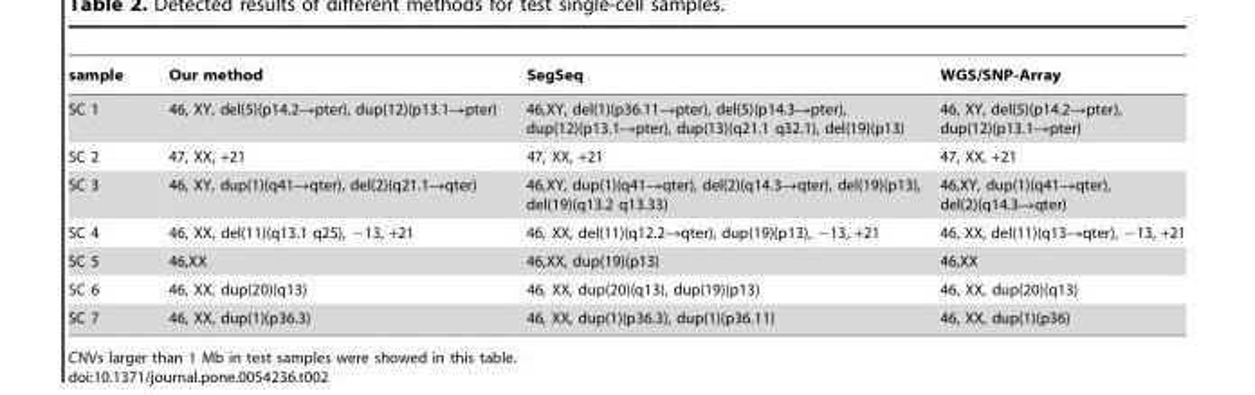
<table><thead><tr><td>sample</td><td>Our method</td><td>SegSeq</td><td>WGS/SNP-Array</td></tr></thead><tbody><tr><td>SC 1</td><td>46, XY, del(5)(p14.2→pter), dup(12)(p13.1→pter)</td><td>46,XY, del(1)(p36.11→pter), del(5)(p14.3→pter), dup(12)(p13.1→pter), dup(13)(q21.1 q32.1), del(19)(p13)</td><td>46, XY, del(5)(p14.2→pter), dup(12)(p13.1→pter)</td></tr><tr><td>SC 2</td><td>47, XX, +21</td><td>47, XX, +21</td><td>47, XX, +21</td></tr><tr><td>SC 3</td><td>46, XY, dup(1)(q41→qter), del(2)(q21.1→qter)</td><td>46,XY, dup(1)(q41→qter), del(2)(q14.3→qter), del(19)(p13), del(19)(q13.2 q13.33)</td><td>46,XY, dup(1)(q41→qter), del(2)(q14.3→qter)</td></tr><tr><td>SC 4</td><td>46, XX, del(11)(q13.1 q25), −13, +21</td><td>46, XX, del(11)(q12.2→qter), dup(19)(p13), −13, +21</td><td>46, XX, del(11)(q13→qter), −13, +21</td></tr><tr><td>SC 5</td><td>46,XX</td><td>46,XX, dup(19)(p13)</td><td>46,XX</td></tr><tr><td>SC 6</td><td>46, XX, dup(20)(q13)</td><td>46, XX, dup(20)(q13), dup(19)(p13)</td><td>46, XX, dup(20)(q13)</td></tr><tr><td>SC 7</td><td>46, XX, dup(1)(p36.3)</td><td>46, XX, dup(1)(p36.3), dup(1)(p36.11)</td><td>46, XX, dup(1)(p36)</td></tr></tbody></table>